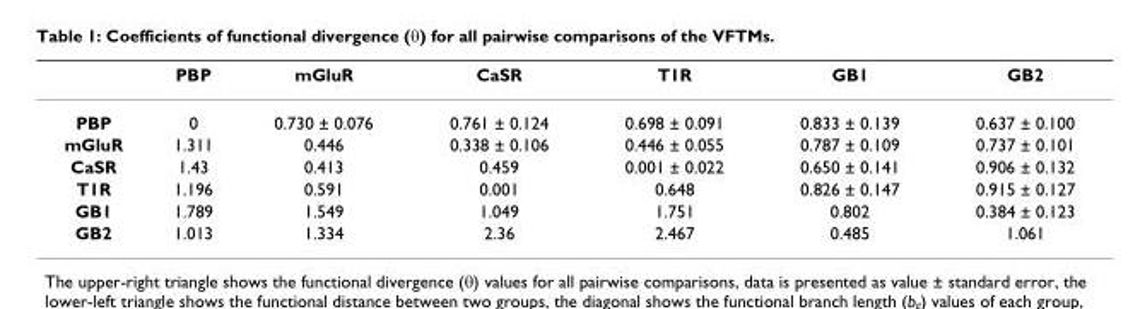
<table><thead><tr><td></td><td>PBP</td><td>mGluR</td><td>CaSR</td><td>T1R</td><td>GB1</td><td>GB2</td></tr></thead><tbody><tr><td>PBP</td><td>0</td><td>0.730 ± 0.076</td><td>0.761 ± 0.124</td><td>0.698 ± 0.091</td><td>0.833 ± 0.139</td><td>0.637 ± 0.100</td></tr><tr><td>mGluR</td><td>1.311</td><td>0.446</td><td>0.338 ± 0.106</td><td>0.446 ± 0.055</td><td>0.787 ± 0.109</td><td>0.737 ± 0.101</td></tr><tr><td>CaSR</td><td>1.43</td><td>0.413</td><td>0.459</td><td>0.001 ± 0.022</td><td>0.650 ± 0.141</td><td>0.906 ± 0.132</td></tr><tr><td>T1R</td><td>1.196</td><td>0.591</td><td>0.001</td><td>0.648</td><td>0.826 ± 0.147</td><td>0.915 ± 0.127</td></tr><tr><td>GB1</td><td>1.789</td><td>1.549</td><td>1.049</td><td>1.751</td><td>0.802</td><td>0.384 ± 0.123</td></tr><tr><td>GB2</td><td>1.013</td><td>1.334</td><td>2.36</td><td>2.467</td><td>0.485</td><td>1.061</td></tr></tbody></table>